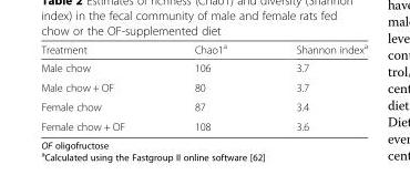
<table><thead><tr><td>Treatment</td><td>Chao1<sup>a</sup></td><td>Shannon index<sup>a</sup></td></tr></thead><tbody><tr><td>Male chow</td><td>106</td><td>3.7</td></tr><tr><td>Male chow + OF</td><td>80</td><td>3.7</td></tr><tr><td>Female chow</td><td>87</td><td>3.4</td></tr><tr><td>Female chow + OF</td><td>108</td><td>3.6</td></tr></tbody></table>